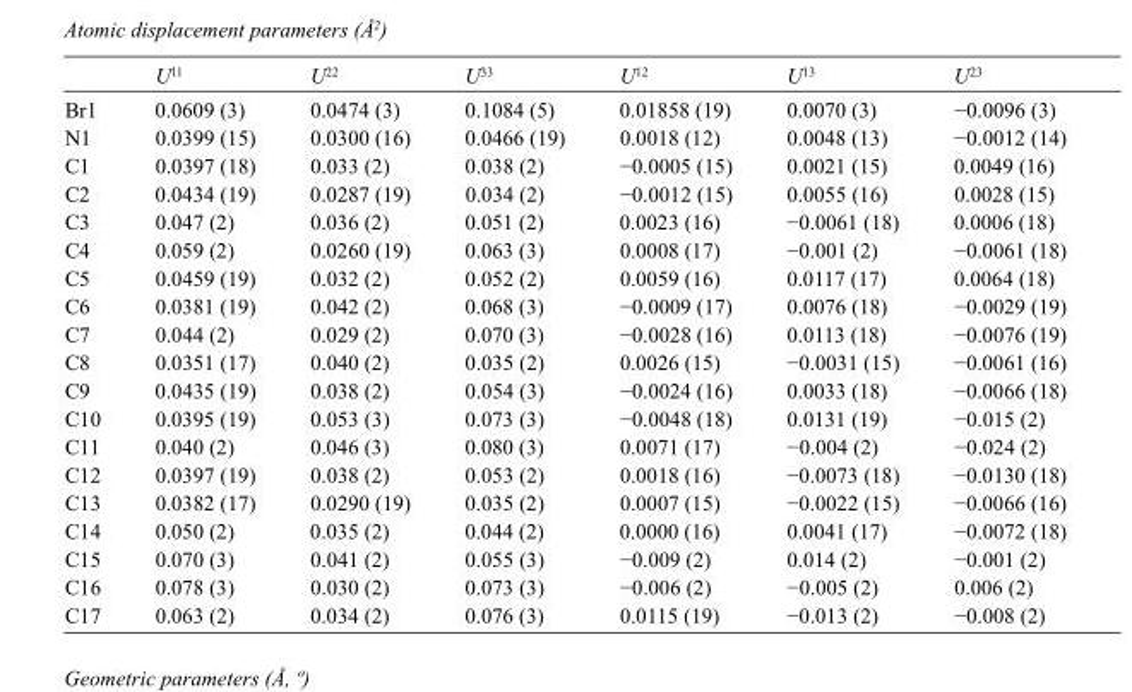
<table><thead><tr><td></td><td>U<sup>11</sup></td><td>U<sup>22</sup></td><td>U<sup>33</sup></td><td>U<sup>12</sup></td><td>U<sup>13</sup></td><td>U<sup>23</sup></td></tr></thead><tbody><tr><td>Br1</td><td>0.0609 (3)</td><td>0.0474 (3)</td><td>0.1084 (5)</td><td>0.01858 (19)</td><td>0.0070 (3)</td><td>−0.0096 (3)</td></tr><tr><td>N1</td><td>0.0399 (15)</td><td>0.0300 (16)</td><td>0.0466 (19)</td><td>0.0018 (12)</td><td>0.0048 (13)</td><td>−0.0012 (14)</td></tr><tr><td>C1</td><td>0.0397 (18)</td><td>0.033 (2)</td><td>0.038 (2)</td><td>−0.0005 (15)</td><td>0.0021 (15)</td><td>0.0049 (16)</td></tr><tr><td>C2</td><td>0.0434 (19)</td><td>0.0287 (19)</td><td>0.034 (2)</td><td>−0.0012 (15)</td><td>0.0055 (16)</td><td>0.0028 (15)</td></tr><tr><td>C3</td><td>0.047 (2)</td><td>0.036 (2)</td><td>0.051 (2)</td><td>0.0023 (16)</td><td>−0.0061 (18)</td><td>0.0006 (18)</td></tr><tr><td>C4</td><td>0.059 (2)</td><td>0.0260 (19)</td><td>0.063 (3)</td><td>0.0008 (17)</td><td>−0.001 (2)</td><td>−0.0061 (18)</td></tr><tr><td>C5</td><td>0.0459 (19)</td><td>0.032 (2)</td><td>0.052 (2)</td><td>0.0059 (16)</td><td>0.0117 (17)</td><td>0.0064 (18)</td></tr><tr><td>C6</td><td>0.0381 (19)</td><td>0.042 (2)</td><td>0.068 (3)</td><td>−0.0009 (17)</td><td>0.0076 (18)</td><td>−0.0029 (19)</td></tr><tr><td>C7</td><td>0.044 (2)</td><td>0.029 (2)</td><td>0.070 (3)</td><td>−0.0028 (16)</td><td>0.0113 (18)</td><td>−0.0076 (19)</td></tr><tr><td>C8</td><td>0.0351 (17)</td><td>0.040 (2)</td><td>0.035 (2)</td><td>0.0026 (15)</td><td>−0.0031 (15)</td><td>−0.0061 (16)</td></tr><tr><td>C9</td><td>0.0435 (19)</td><td>0.038 (2)</td><td>0.054 (3)</td><td>−0.0024 (16)</td><td>0.0033 (18)</td><td>−0.0066 (18)</td></tr><tr><td>C10</td><td>0.0395 (19)</td><td>0.053 (3)</td><td>0.073 (3)</td><td>−0.0048 (18)</td><td>0.0131 (19)</td><td>−0.015 (2)</td></tr><tr><td>C11</td><td>0.040 (2)</td><td>0.046 (3)</td><td>0.080 (3)</td><td>0.0071 (17)</td><td>−0.004 (2)</td><td>−0.024 (2)</td></tr><tr><td>C12</td><td>0.0397 (19)</td><td>0.038 (2)</td><td>0.053 (2)</td><td>0.0018 (16)</td><td>−0.0073 (18)</td><td>−0.0130 (18)</td></tr><tr><td>C13</td><td>0.0382 (17)</td><td>0.0290 (19)</td><td>0.035 (2)</td><td>0.0007 (15)</td><td>−0.0022 (15)</td><td>−0.0066 (16)</td></tr><tr><td>C14</td><td>0.050 (2)</td><td>0.035 (2)</td><td>0.044 (2)</td><td>0.0000 (16)</td><td>0.0041 (17)</td><td>−0.0072 (18)</td></tr><tr><td>C15</td><td>0.070 (3)</td><td>0.041 (2)</td><td>0.055 (3)</td><td>−0.009 (2)</td><td>0.014 (2)</td><td>−0.001 (2)</td></tr><tr><td>C16</td><td>0.078 (3)</td><td>0.030 (2)</td><td>0.073 (3)</td><td>−0.006 (2)</td><td>−0.005 (2)</td><td>0.006 (2)</td></tr><tr><td>C17</td><td>0.063 (2)</td><td>0.034 (2)</td><td>0.076 (3)</td><td>0.0115 (19)</td><td>−0.013 (2)</td><td>−0.008 (2)</td></tr></tbody></table>